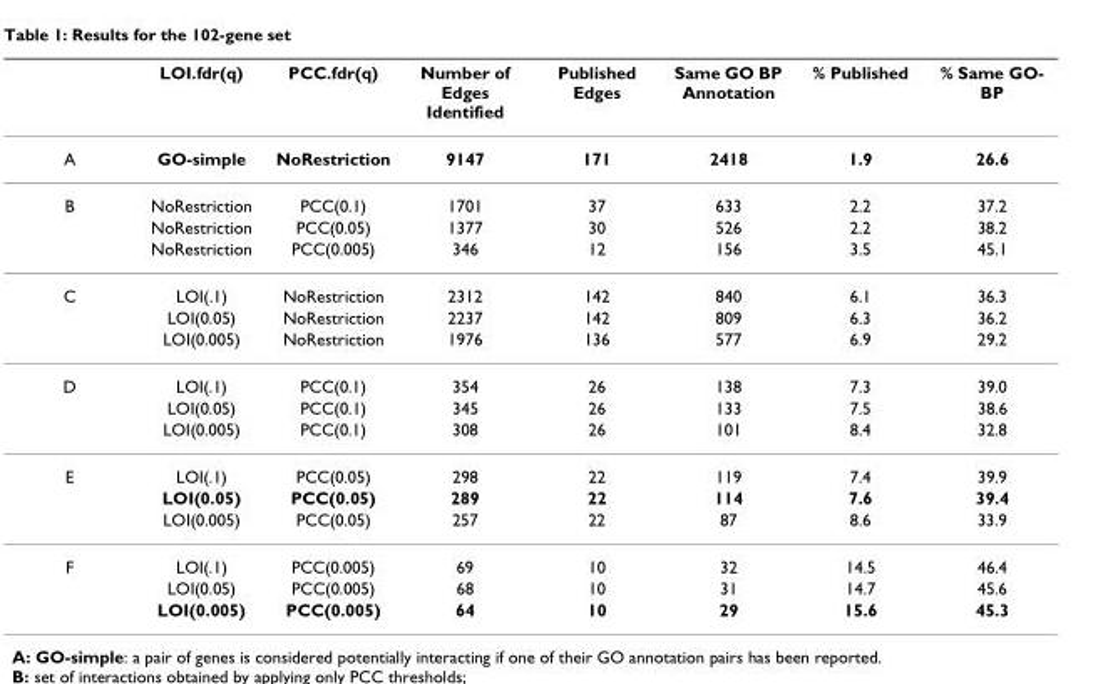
<table><thead><tr><td></td><td>LOI.fdr(q)</td><td>PCC.fdr(q)</td><td>Number of Edges Identified</td><td>Published Edges</td><td>Same GO BP Annotation</td><td>% Published</td><td>% Same GO- BP</td></tr></thead><tbody><tr><td>A</td><td>GO-simple</td><td>NoRestriction</td><td>9147</td><td>171</td><td>2418</td><td>1.9</td><td>26.6</td></tr><tr><td rowspan="3">B</td><td>NoRestriction</td><td>PCC(0.1)</td><td>1701</td><td>37</td><td>633</td><td>2.2</td><td>37.2</td></tr><tr><td>NoRestriction</td><td>PCC(0.05)</td><td>1377</td><td>30</td><td>526</td><td>2.2</td><td>38.2</td></tr><tr><td>NoRestriction</td><td>PCC(0.005)</td><td>346</td><td>12</td><td>156</td><td>3.5</td><td>45.1</td></tr><tr><td rowspan="3">C</td><td>LOI(.1)</td><td>NoRestriction</td><td>2312</td><td>142</td><td>840</td><td>6.1</td><td>36.3</td></tr><tr><td>LOI(0.05)</td><td>NoRestriction</td><td>2237</td><td>142</td><td>809</td><td>6.3</td><td>36.2</td></tr><tr><td>LOI(0.005)</td><td>NoRestriction</td><td>1976</td><td>136</td><td>577</td><td>6.9</td><td>29.2</td></tr><tr><td rowspan="3">D</td><td>LOI(.1)</td><td>PCC(0.1)</td><td>354</td><td>26</td><td>138</td><td>7.3</td><td>39.0</td></tr><tr><td>LOI(0.05)</td><td>PCC(0.1)</td><td>345</td><td>26</td><td>133</td><td>7.5</td><td>38.6</td></tr><tr><td>LOI(0.005)</td><td>PCC(0.1)</td><td>308</td><td>26</td><td>101</td><td>8.4</td><td>32.8</td></tr><tr><td rowspan="3">E</td><td>LOI(.1)</td><td>PCC(0.05)</td><td>298</td><td>22</td><td>119</td><td>7.4</td><td>39.9</td></tr><tr><td>LOI(0.05)</td><td>PCC(0.05)</td><td>289</td><td>22</td><td>114</td><td>7.6</td><td>39.4</td></tr><tr><td>LOI(0.005)</td><td>PCC(0.05)</td><td>257</td><td>22</td><td>87</td><td>8.6</td><td>33.9</td></tr><tr><td rowspan="3">F</td><td>LOI(.1)</td><td>PCC(0.005)</td><td>69</td><td>10</td><td>32</td><td>14.5</td><td>46.4</td></tr><tr><td>LOI(0.05)</td><td>PCC(0.005)</td><td>68</td><td>10</td><td>31</td><td>14.7</td><td>45.6</td></tr><tr><td>LOI(0.005)</td><td>PCC(0.005)</td><td>64</td><td>10</td><td>29</td><td>15.6</td><td>45.3</td></tr></tbody></table>